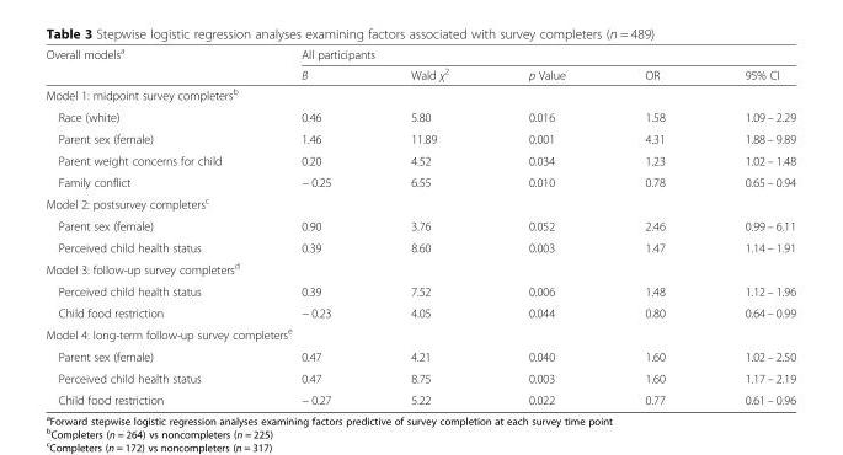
<table><thead><tr><td rowspan="2">Overall models<sup>a</sup></td><td colspan="5">All participants</td></tr><tr><td>B</td><td>Wald χ<sup>2</sup></td><td>p Value</td><td>OR</td><td>95% CI</td></tr></thead><tbody><tr><td colspan="6">Model 1: midpoint survey completers<sup>b</sup></td></tr><tr><td>Race (white)</td><td>0.46</td><td>5.80</td><td>0.016</td><td>1.58</td><td>1.09 – 2.29</td></tr><tr><td>Parent sex (female)</td><td>1.46</td><td>11.89</td><td>0.001</td><td>4.31</td><td>1.88 – 9.89</td></tr><tr><td>Parent weight concerns for child</td><td>0.20</td><td>4.52</td><td>0.034</td><td>1.23</td><td>1.02 – 1.48</td></tr><tr><td>Family conflict</td><td>− 0.25</td><td>6.55</td><td>0.010</td><td>0.78</td><td>0.65 – 0.94</td></tr><tr><td colspan="6">Model 2: postsurvey completers<sup>c</sup></td></tr><tr><td>Parent sex (female)</td><td>0.90</td><td>3.76</td><td>0.052</td><td>2.46</td><td>0.99 – 6.11</td></tr><tr><td>Perceived child health status</td><td>0.39</td><td>8.60</td><td>0.003</td><td>1.47</td><td>1.14 – 1.91</td></tr><tr><td colspan="6">Model 3: follow-up survey completers<sup>d</sup></td></tr><tr><td>Perceived child health status</td><td>0.39</td><td>7.52</td><td>0.006</td><td>1.48</td><td>1.12 – 1.96</td></tr><tr><td>Child food restriction</td><td>− 0.23</td><td>4.05</td><td>0.044</td><td>0.80</td><td>0.64 – 0.99</td></tr><tr><td colspan="6">Model 4: long-term follow-up survey completers<sup>e</sup></td></tr><tr><td>Parent sex (female)</td><td>0.47</td><td>4.21</td><td>0.040</td><td>1.60</td><td>1.02 – 2.50</td></tr><tr><td>Perceived child health status</td><td>0.47</td><td>8.75</td><td>0.003</td><td>1.60</td><td>1.17 – 2.19</td></tr><tr><td>Child food restriction</td><td>− 0.27</td><td>5.22</td><td>0.022</td><td>0.77</td><td>0.61 – 0.96</td></tr></tbody></table>